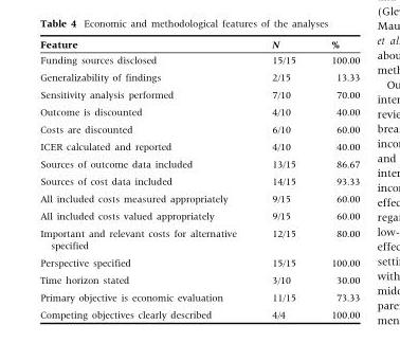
<table><thead><tr><td>Feature</td><td>N</td><td>%</td></tr></thead><tbody><tr><td>Funding sources disclosed</td><td>15/15</td><td>100.00</td></tr><tr><td>Generalizability of findings</td><td>2/15</td><td>13.33</td></tr><tr><td>Sensitivity analysis performed</td><td>7/10</td><td>70.00</td></tr><tr><td>Outcome is discounted</td><td>4/10</td><td>40.00</td></tr><tr><td>Costs are discounted</td><td>6/10</td><td>60.00</td></tr><tr><td>ICER calculated and reported</td><td>4/10</td><td>40.00</td></tr><tr><td>Sources of outcome data included</td><td>13/15</td><td>86.67</td></tr><tr><td>Sources of cost data included</td><td>14/15</td><td>93.33</td></tr><tr><td>All included costs measured appropriately</td><td>9/15</td><td>60.00</td></tr><tr><td>All included costs valued appropriately</td><td>9/15</td><td>60.00</td></tr><tr><td>Important and relevant costs for alternative specified</td><td>12/15</td><td>80.00</td></tr><tr><td>Perspective specified</td><td>15/15</td><td>100.00</td></tr><tr><td>Time horizon stated</td><td>3/10</td><td>30.00</td></tr><tr><td>Primary objective is economic evaluation</td><td>11/15</td><td>73.33</td></tr><tr><td>Competing objectives clearly described</td><td>4/4</td><td>100.00</td></tr></tbody></table>